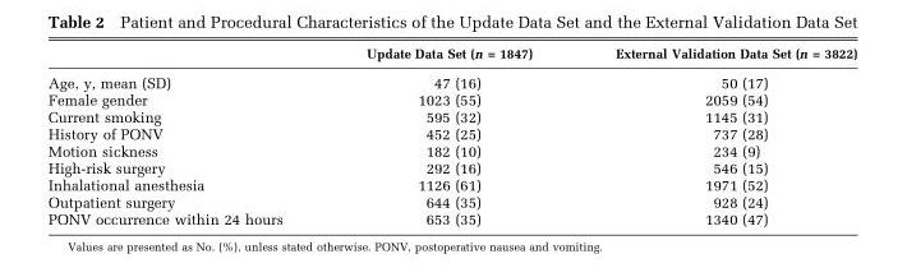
<table><thead><tr><td></td><td>Update Data Set (n = 1847)</td><td>External Validation Data Set (n = 3822)</td></tr></thead><tbody><tr><td>Age, y, mean (SD)</td><td>47 (16)</td><td>50 (17)</td></tr><tr><td>Female gender</td><td>1023 (55)</td><td>2059 (54)</td></tr><tr><td>Current smoking</td><td>595 (32)</td><td>1145 (31)</td></tr><tr><td>History of PONV</td><td>452 (25)</td><td>737 (28)</td></tr><tr><td>Motion sickness</td><td>182 (10)</td><td>234 (9)</td></tr><tr><td>High-risk surgery</td><td>292 (16)</td><td>546 (15)</td></tr><tr><td>Inhalational anesthesia</td><td>1126 (61)</td><td>1971 (52)</td></tr><tr><td>Outpatient surgery</td><td>644 (35)</td><td>928 (24)</td></tr><tr><td>PONV occurrence within 24 hours</td><td>653 (35)</td><td>1340 (47)</td></tr></tbody></table>